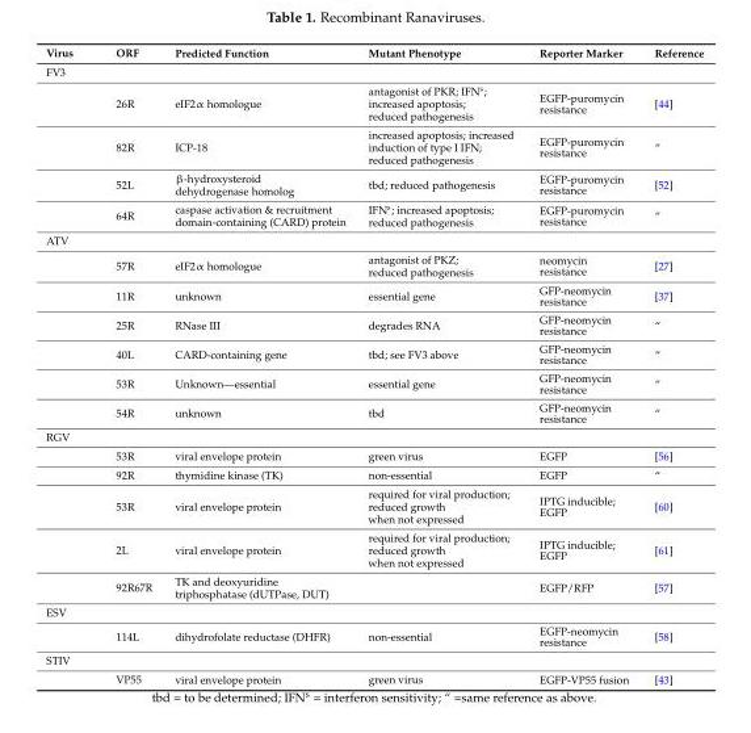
<table><thead><tr><td>Virus</td><td>ORF</td><td>Predicted Function</td><td>Mutant Phenotype</td><td>Reporter Marker</td><td>Reference</td></tr></thead><tbody><tr><td colspan="6">FV3</td></tr><tr><td></td><td>26R</td><td>eIF2α homologue</td><td>antagonist of PKR; IFN<sup>s</sup>; increased apoptosis; reduced pathogenesis</td><td>EGFP-puromycin resistance</td><td>[44]</td></tr><tr><td></td><td>82R</td><td>ICP-18</td><td>increased apoptosis; increased induction of type I IFN; reduced pathogenesis</td><td>EGFP-puromycin resistance</td><td>“</td></tr><tr><td></td><td>52L</td><td>β-hydroxysteroid dehydrogenase homolog</td><td>tbd; reduced pathogenesis</td><td>EGFP-puromycin resistance</td><td>[52]</td></tr><tr><td></td><td>64R</td><td>caspase activation &amp; recruitment domain-containing (CARD) protein</td><td>IFN<sup>s</sup>; increased apoptosis; reduced pathogenesis</td><td>EGFP-puromycin resistance</td><td>“</td></tr><tr><td colspan="6">ATV</td></tr><tr><td></td><td>57R</td><td>eIF2α homologue</td><td>antagonist of PKZ; reduced pathogenesis</td><td>neomycin resistance</td><td>[27]</td></tr><tr><td></td><td>11R</td><td>unknown</td><td>essential gene</td><td>GFP-neomycin resistance</td><td>[37]</td></tr><tr><td></td><td>25R</td><td>RNase III</td><td>degrades RNA</td><td>GFP-neomycin resistance</td><td>“</td></tr><tr><td></td><td>40L</td><td>CARD-containing gene</td><td>tbd; see FV3 above</td><td>GFP-neomycin resistance</td><td>“</td></tr><tr><td></td><td>53R</td><td>Unknown—essential</td><td>essential gene</td><td>GFP-neomycin resistance</td><td>“</td></tr><tr><td></td><td>54R</td><td>unknown</td><td>tbd</td><td>GFP-neomycin resistance</td><td>“</td></tr><tr><td colspan="6">RGV</td></tr><tr><td></td><td>53R</td><td>viral envelope protein</td><td>green virus</td><td>EGFP</td><td>[56]</td></tr><tr><td></td><td>92R</td><td>thymidine kinase (TK)</td><td>non-essential</td><td>EGFP</td><td>“</td></tr><tr><td></td><td>53R</td><td>viral envelope protein</td><td>required for viral production; reduced growth when not expressed</td><td>IPTG inducible; EGFP</td><td>[60]</td></tr><tr><td></td><td>2L</td><td>viral envelope protein</td><td>required for viral production; reduced growth when not expressed</td><td>IPTG inducible; EGFP</td><td>[61]</td></tr><tr><td></td><td>92R67R</td><td>TK and deoxyuridine triphosphatase (dUTPase, DUT)</td><td></td><td>EGFP/RFP</td><td>[57]</td></tr><tr><td colspan="6">ESV</td></tr><tr><td></td><td>114L</td><td>dihydrofolate reductase (DHFR)</td><td>non-essential</td><td>EGFP-neomycin resistance</td><td>[58]</td></tr><tr><td colspan="6">STIV</td></tr><tr><td></td><td>VP55</td><td>viral envelope protein</td><td>green virus</td><td>EGFP-VP55 fusion</td><td>[43]</td></tr></tbody></table>